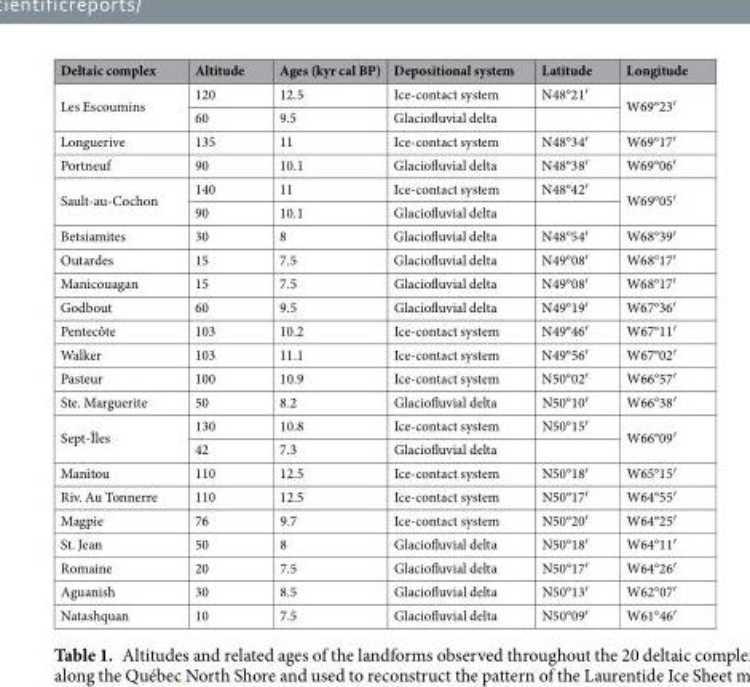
<table><thead><tr><td>Deltaic complex</td><td>Altitude</td><td>Ages (kyr cal BP)</td><td>Depositional system</td><td>Latitude</td><td>Longitude</td></tr></thead><tbody><tr><td rowspan="2">Les Escoumins</td><td>120</td><td>12.5</td><td>Ice-contact system</td><td>N48°21′</td><td rowspan="2">W69°23′</td></tr><tr><td>60</td><td>9.5</td><td>Glaciofluvial delta</td><td></td></tr><tr><td>Longuerive</td><td>135</td><td>11</td><td>Ice-contact system</td><td>N48°34′</td><td>W69°17′</td></tr><tr><td>Portneuf</td><td>90</td><td>10.1</td><td>Glaciofluvial delta</td><td>N48°38′</td><td>W69°06′</td></tr><tr><td rowspan="2">Sault-au-Cochon</td><td>140</td><td>11</td><td>Ice-contact system</td><td>N48°42′</td><td rowspan="2">W69°05′</td></tr><tr><td>90</td><td>10.1</td><td>Glaciofluvial delta</td><td></td></tr><tr><td>Betsiamites</td><td>30</td><td>8</td><td>Glaciofluvial delta</td><td>N48°54′</td><td>W68°39′</td></tr><tr><td>Outardes</td><td>15</td><td>7.5</td><td>Glaciofluvial delta</td><td>N49°08′</td><td>W68°17′</td></tr><tr><td>Manicouagan</td><td>15</td><td>7.5</td><td>Glaciofluvial delta</td><td>N49°08′</td><td>W68°17′</td></tr><tr><td>Godbout</td><td>60</td><td>9.5</td><td>Glaciofluvial delta</td><td>N49°19′</td><td>W67°36′</td></tr><tr><td>Pentecôte</td><td>103</td><td>10.2</td><td>Ice-contact system</td><td>N49°46′</td><td>W67°11′</td></tr><tr><td>Walker</td><td>103</td><td>11.1</td><td>Ice-contact system</td><td>N49°56′</td><td>W67°02′</td></tr><tr><td>Pasteur</td><td>100</td><td>10.9</td><td>Ice-contact system</td><td>N50°02′</td><td>W66°57′</td></tr><tr><td>Ste. Marguerite</td><td>50</td><td>8.2</td><td>Glaciofluvial delta</td><td>N50°10′</td><td>W66°38′</td></tr><tr><td rowspan="2">Sept-Îles</td><td>130</td><td>10.8</td><td>Ice-contact system</td><td>N50°15′</td><td rowspan="2">W66°09′</td></tr><tr><td>42</td><td>7.3</td><td>Glaciofluvial delta</td><td></td></tr><tr><td>Manitou</td><td>110</td><td>12.5</td><td>Ice-contact system</td><td>N50°18′</td><td>W65°15′</td></tr><tr><td>Riv. Au Tonnerre</td><td>110</td><td>12.5</td><td>Ice-contact system</td><td>N50°17′</td><td>W64°55′</td></tr><tr><td>Magpie</td><td>76</td><td>9.7</td><td>Ice-contact system</td><td>N50°20′</td><td>W64°25′</td></tr><tr><td>St. Jean</td><td>50</td><td>8</td><td>Glaciofluvial delta</td><td>N50°18′</td><td>W64°11′</td></tr><tr><td>Romaine</td><td>20</td><td>7.5</td><td>Glaciofluvial delta</td><td>N50°17′</td><td>W64°26′</td></tr><tr><td>Aguanish</td><td>30</td><td>8.5</td><td>Glaciofluvial delta</td><td>N50°13′</td><td>W62°07′</td></tr><tr><td>Natashquan</td><td>10</td><td>7.5</td><td>Glaciofluvial delta</td><td>N50°09′</td><td>W61°46′</td></tr></tbody></table>